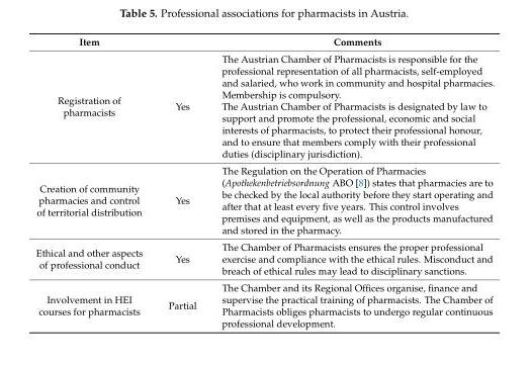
<table><thead><tr><td>Item</td><td></td><td>Comments</td></tr></thead><tbody><tr><td>Registration of pharmacists</td><td>Yes</td><td>The Austrian Chamber of Pharmacists is responsible for the professional representation of all pharmacists, self-employed and salaried, who work in community and hospital pharmacies. Membership is compulsory. The Austrian Chamber of Pharmacists is designated by law to support and promote the professional, economic and social interests of pharmacists, to protect their professional honour, and to ensure that members comply with their professional duties (disciplinary jurisdiction).</td></tr><tr><td>Creation of community pharmacies and control of territorial distribution</td><td>Yes</td><td>The Regulation on the Operation of Pharmacies (Apothekenbetriebsordnung ABO [8]) states that pharmacies are to be checked by the local authority before they start operating and after that at least every five years. This control involves premises and equipment, as well as the products manufactured and stored in the pharmacy.</td></tr><tr><td>Ethical and other aspects of professional conduct</td><td>Yes</td><td>The Chamber of Pharmacists ensures the proper professional exercise and compliance with the ethical rules. Misconduct and breach of ethical rules may lead to disciplinary sanctions.</td></tr><tr><td>Involvement in HEI courses for pharmacists</td><td>Partial</td><td>The Chamber and its Regional Offices organise, finance and supervise the practical training of pharmacists. The Chamber of Pharmacists obliges pharmacists to undergo regular continuous professional development.</td></tr></tbody></table>